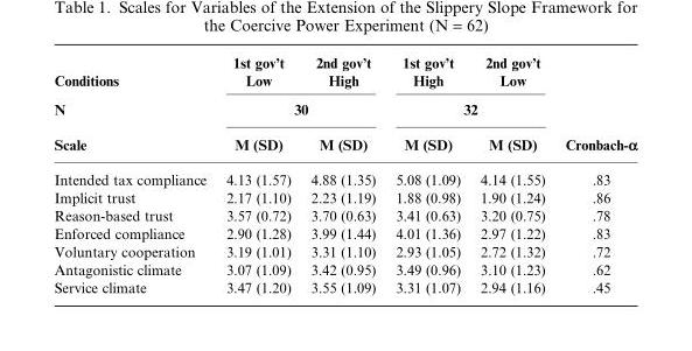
<table><thead><tr><td rowspan="4">Conditions N Scale</td><td rowspan="2">1st gov’t Low</td><td rowspan="2">2nd gov’t High</td><td rowspan="2">1st gov’t High</td><td rowspan="2">2nd gov’t Low</td><td rowspan="4">Cronbach-α</td></tr><tr></tr><tr><td colspan="2">30</td><td colspan="2">32</td></tr><tr><td>M (SD)</td><td>M (SD)</td><td>M (SD)</td><td>M (SD)</td></tr></thead><tbody><tr><td>Intended tax compliance</td><td>4.13 (1.57)</td><td>4.88 (1.35)</td><td>5.08 (1.09)</td><td>4.14 (1.55)</td><td>.83</td></tr><tr><td>Implicit trust</td><td>2.17 (1.10)</td><td>2.23 (1.19)</td><td>1.88 (0.98)</td><td>1.90 (1.24)</td><td>.86</td></tr><tr><td>Reason-based trust</td><td>3.57 (0.72)</td><td>3.70 (0.63)</td><td>3.41 (0.63)</td><td>3.20 (0.75)</td><td>.78</td></tr><tr><td>Enforced compliance</td><td>2.90 (1.28)</td><td>3.99 (1.44)</td><td>4.01 (1.36)</td><td>2.97 (1.22)</td><td>.83</td></tr><tr><td>Voluntary cooperation</td><td>3.19 (1.01)</td><td>3.31 (1.10)</td><td>2.93 (1.05)</td><td>2.72 (1.32)</td><td>.72</td></tr><tr><td>Antagonistic climate</td><td>3.07 (1.09)</td><td>3.42 (0.95)</td><td>3.49 (0.96)</td><td>3.10 (1.23)</td><td>.62</td></tr><tr><td>Service climate</td><td>3.47 (1.20)</td><td>3.55 (1.09)</td><td>3.31 (1.07)</td><td>2.94 (1.16)</td><td>.45</td></tr></tbody></table>